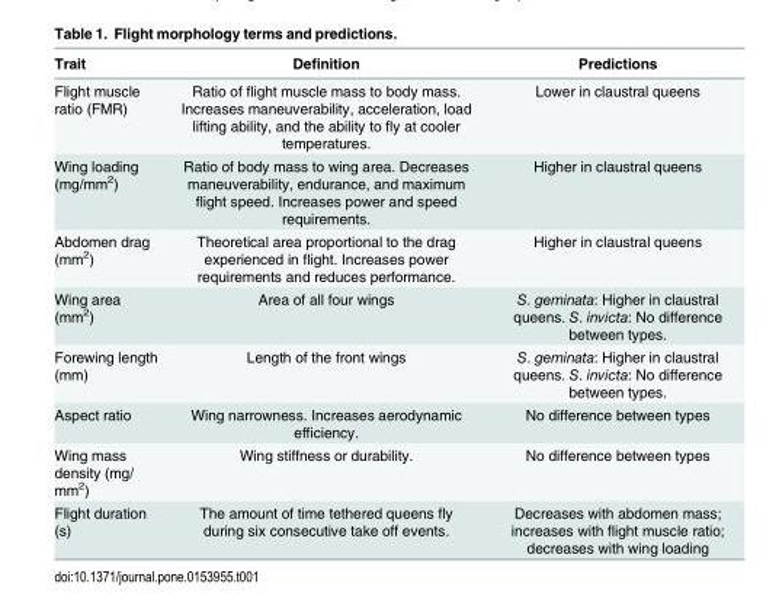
<table><thead><tr><td>Trait</td><td>Definition</td><td>Predictions</td></tr></thead><tbody><tr><td>Flight muscle ratio (FMR)</td><td>Ratio of flight muscle mass to body mass. Increases maneuverability, acceleration, load lifting ability, and the ability to fly at cooler temperatures.</td><td>Lower in claustral queens</td></tr><tr><td>Wing loading (mg/mm<sup>2</sup>)</td><td>Ratio of body mass to wing area. Decreases maneuverability, endurance, and maximum flight speed. Increases power and speed requirements.</td><td>Higher in claustral queens</td></tr><tr><td>Abdomen drag (mm<sup>2</sup>)</td><td>Theoretical area proportional to the drag experienced in flight. Increases power requirements and reduces performance.</td><td>Higher in claustral queens</td></tr><tr><td>Wing area (mm<sup>2</sup>)</td><td>Area of all four wings</td><td>S. geminata: Higher in claustral queens. S. invicta: No difference between types.</td></tr><tr><td>Forewing length (mm)</td><td>Length of the front wings</td><td>S. geminata: Higher in claustral queens. S. invicta: No difference between types.</td></tr><tr><td>Aspect ratio</td><td>Wing narrowness. Increases aerodynamic efficiency.</td><td>No difference between types</td></tr><tr><td>Wing mass density (mg/ mm<sup>2</sup>)</td><td>Wing stiffness or durability.</td><td>No difference between types</td></tr><tr><td>Flight duration (s)</td><td>The amount of time tethered queens fly during six consecutive take off events.</td><td>Decreases with abdomen mass; increases with flight muscle ratio; decreases with wing loading</td></tr></tbody></table>